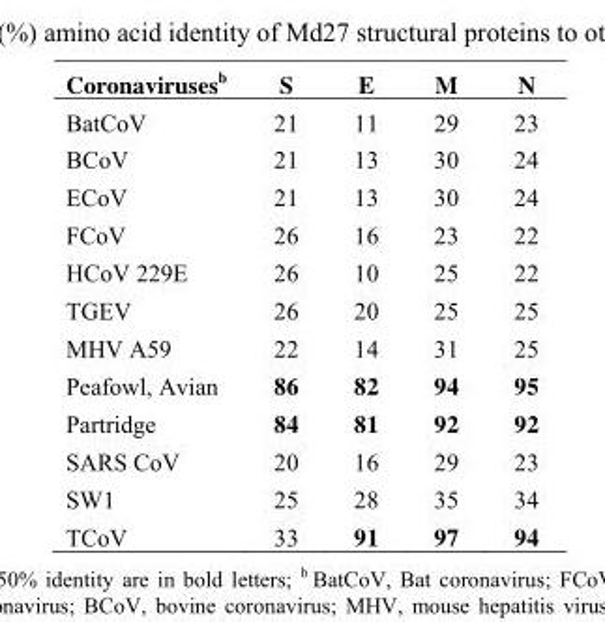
<table><thead><tr><td>Coronaviruses<sup>b</sup></td><td>S</td><td>E</td><td>M</td><td>N</td></tr></thead><tbody><tr><td>BatCoV</td><td>21</td><td>11</td><td>29</td><td>23</td></tr><tr><td>BCoV</td><td>21</td><td>13</td><td>30</td><td>24</td></tr><tr><td>ECoV</td><td>21</td><td>13</td><td>30</td><td>24</td></tr><tr><td>FCoV</td><td>26</td><td>16</td><td>23</td><td>22</td></tr><tr><td>HCoV 229E</td><td>26</td><td>10</td><td>25</td><td>22</td></tr><tr><td>TGEV</td><td>26</td><td>20</td><td>25</td><td>25</td></tr><tr><td>MHV A59</td><td>22</td><td>14</td><td>31</td><td>25</td></tr><tr><td>Peafowl, Avian</td><td>86</td><td>82</td><td>94</td><td>95</td></tr><tr><td>Partridge</td><td>84</td><td>81</td><td>92</td><td>92</td></tr><tr><td>SARS CoV</td><td>20</td><td>16</td><td>29</td><td>23</td></tr><tr><td>SW1</td><td>25</td><td>28</td><td>35</td><td>34</td></tr><tr><td>TCoV</td><td>33</td><td>91</td><td>97</td><td>94</td></tr></tbody></table>